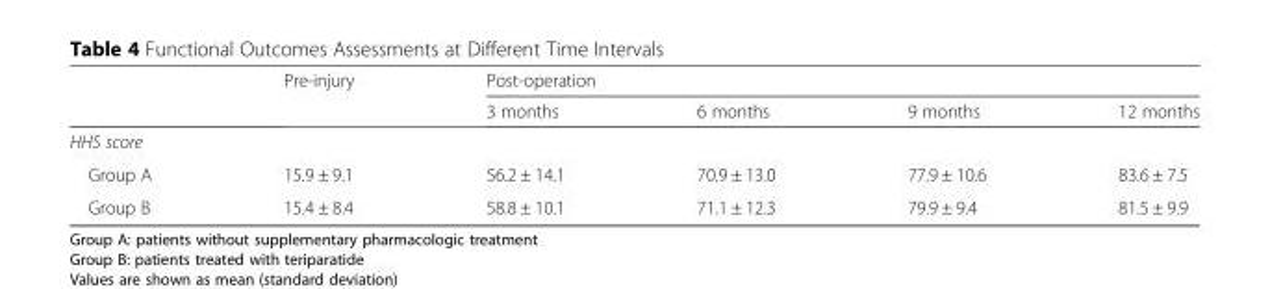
<table><thead><tr><td rowspan="2"></td><td rowspan="2">Pre-injury</td><td colspan="4">Post-operation</td></tr><tr><td>3 months</td><td>6 months</td><td>9 months</td><td>12 months</td></tr></thead><tbody><tr><td colspan="6">HHS score</td></tr><tr><td>Group A</td><td>15.9 ± 9.1</td><td>56.2 ± 14.1</td><td>70.9 ± 13.0</td><td>77.9 ± 10.6</td><td>83.6 ± 7.5</td></tr><tr><td>Group B</td><td>15.4 ± 8.4</td><td>58.8 ± 10.1</td><td>71.1 ± 12.3</td><td>79.9 ± 9.4</td><td>81.5 ± 9.9</td></tr></tbody></table>